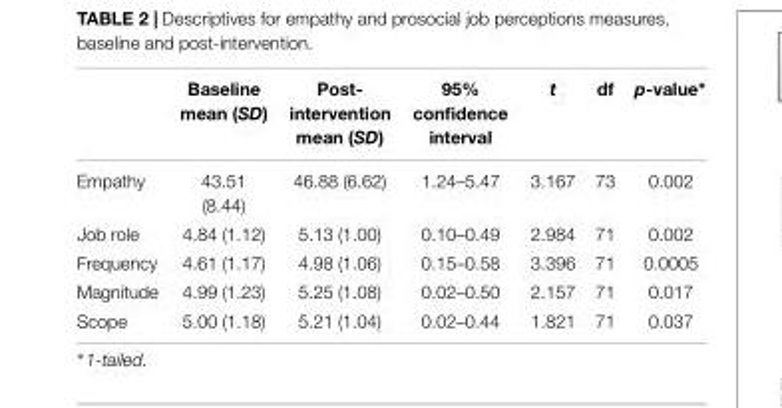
<table><thead><tr><td></td><td>Baseline mean (SD)</td><td>Post- intervention mean (SD)</td><td>95% confidence interval</td><td>t</td><td>df</td><td>p-value∗</td></tr></thead><tbody><tr><td>Empathy</td><td>43.51 (8.44)</td><td>46.88 (6.62)</td><td>1.24–5.47</td><td>3.167</td><td>73</td><td>0.002</td></tr><tr><td>Job role</td><td>4.84 (1.12)</td><td>5.13 (1.00)</td><td>0.10–0.49</td><td>2.984</td><td>71</td><td>0.002</td></tr><tr><td>Frequency</td><td>4.61 (1.17)</td><td>4.98 (1.06)</td><td>0.15–0.58</td><td>3.396</td><td>71</td><td>0.0005</td></tr><tr><td>Magnitude</td><td>4.99 (1.23)</td><td>5.25 (1.08)</td><td>0.02–0.50</td><td>2.157</td><td>71</td><td>0.017</td></tr><tr><td>Scope</td><td>5.00 (1.18)</td><td>5.21 (1.04)</td><td>0.02–0.44</td><td>1.821</td><td>71</td><td>0.037</td></tr></tbody></table>